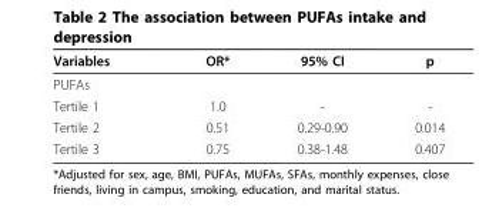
<table><thead><tr><td>Variables</td><td>OR*</td><td>95% CI</td><td>p</td></tr></thead><tbody><tr><td colspan="4">PUFAs</td></tr><tr><td>Tertile 1</td><td>1.0</td><td>-</td><td>-</td></tr><tr><td>Tertile 2</td><td>0.51</td><td>0.29-0.90</td><td>0.014</td></tr><tr><td>Tertile 3</td><td>0.75</td><td>0.38-1.48</td><td>0.407</td></tr></tbody></table>